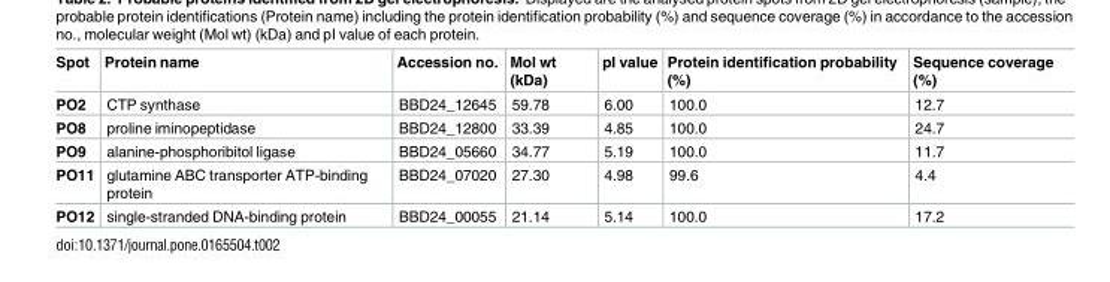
<table><thead><tr><td>Spot</td><td>Protein name</td><td>Accession no.</td><td>Mol wt (kDa)</td><td>pI value</td><td>Protein identification probability (%)</td><td>Sequence coverage (%)</td></tr></thead><tbody><tr><td>PO2</td><td>CTP synthase</td><td>BBD24_12645</td><td>59.78</td><td>6.00</td><td>100.0</td><td>12.7</td></tr><tr><td>PO8</td><td>proline iminopeptidase</td><td>BBD24_12800</td><td>33.39</td><td>4.85</td><td>100.0</td><td>24.7</td></tr><tr><td>PO9</td><td>alanine-phosphoribitol ligase</td><td>BBD24_05660</td><td>34.77</td><td>5.19</td><td>100.0</td><td>11.7</td></tr><tr><td>PO11</td><td>glutamine ABC transporter ATP-binding protein</td><td>BBD24_07020</td><td>27.30</td><td>4.98</td><td>99.6</td><td>4.4</td></tr><tr><td>PO12</td><td>single-stranded DNA-binding protein</td><td>BBD24_00055</td><td>21.14</td><td>5.14</td><td>100.0</td><td>17.2</td></tr></tbody></table>